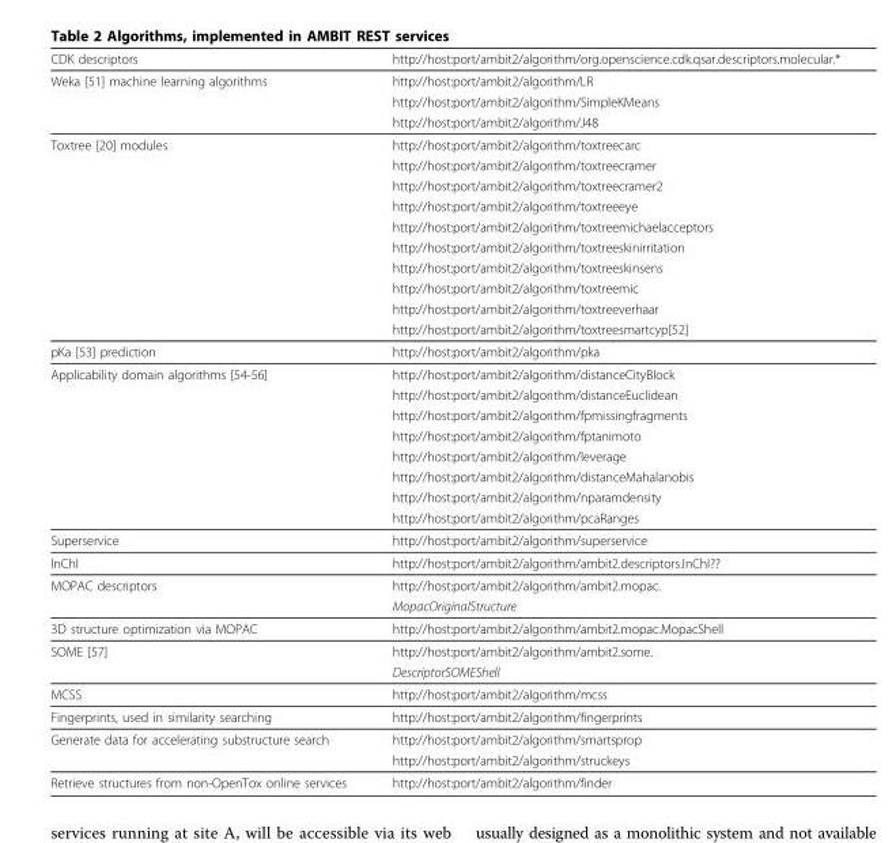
<table><thead><tr><td>CDK descriptors</td><td>http://host:port/ambit2/algorithm/org.openscience.cdk.qsar.descriptors.molecular.*</td></tr></thead><tbody><tr><td rowspan="3">Weka [51] machine learning algorithms</td><td>http://host:port/ambit2/algorithm/LR</td></tr><tr><td>http://host:port/ambit2/algorithm/SimpleKMeans</td></tr><tr><td>http://host:port/ambit2/algorithm/J48</td></tr><tr><td rowspan="10">Toxtree [20] modules</td><td>http://host:port/ambit2/algorithm/toxtreecarc</td></tr><tr><td>http://host:port/ambit2/algorithm/toxtreecramer</td></tr><tr><td>http://host:port/ambit2/algorithm/toxtreecramer2</td></tr><tr><td>http://host:port/ambit2/algorithm/toxtreeeye</td></tr><tr><td>http://host:port/ambit2/algorithm/toxtreemichaelacceptors</td></tr><tr><td>http://host:port/ambit2/algorithm/toxtreeskinirritation</td></tr><tr><td>http://host:port/ambit2/algorithm/toxtreeskinsens</td></tr><tr><td>http://host:port/ambit2/algorithm/toxtreemic</td></tr><tr><td>http://host:port/ambit2/algorithm/toxtreeverhaar</td></tr><tr><td>http://host:port/ambit2/algorithm/toxtreesmartcyp[52]</td></tr><tr><td>pKa [53] prediction</td><td>http://host:port/ambit2/algorithm/pka</td></tr><tr><td rowspan="8">Applicability domain algorithms [54-56]</td><td>http://host:port/ambit2/algorithm/distanceCityBlock</td></tr><tr><td>http://host:port/ambit2/algorithm/distanceEuclidean</td></tr><tr><td>http://host:port/ambit2/algorithm/fpmissingfragments</td></tr><tr><td>http://host:port/ambit2/algorithm/fptanimoto</td></tr><tr><td>http://host:port/ambit2/algorithm/leverage</td></tr><tr><td>http://host:port/ambit2/algorithm/distanceMahalanobis</td></tr><tr><td>http://host:port/ambit2/algorithm/nparamdensity</td></tr><tr><td>http://host:port/ambit2/algorithm/pcaRanges</td></tr><tr><td>Superservice</td><td>http://host:port/ambit2/algorithm/superservice</td></tr><tr><td>InChI</td><td>http://host:port/ambit2/algorithm/ambit2.descriptors.InChI??</td></tr><tr><td rowspan="2">MOPAC descriptors</td><td>http://host:port/ambit2/algorithm/ambit2.mopac.</td></tr><tr><td>MopacOriginalStructure</td></tr><tr><td>3D structure optimization via MOPAC</td><td>http://host:port/ambit2/algorithm/ambit2.mopac.MopacShell</td></tr><tr><td rowspan="2">SOME [57]</td><td>http://host:port/ambit2/algorithm/ambit2.some.</td></tr><tr><td>DescriptorSOMEShell</td></tr><tr><td>MCSS</td><td>http://host:port/ambit2/algorithm/mcss</td></tr><tr><td>Fingerprints, used in similarity searching</td><td>http://host:port/ambit2/algorithm/fingerprints</td></tr><tr><td rowspan="2">Generate data for accelerating substructure search</td><td>http://host:port/ambit2/algorithm/smartsprop</td></tr><tr><td>http://host:port/ambit2/algorithm/struckeys</td></tr><tr><td>Retrieve structures from non-OpenTox online services</td><td>http://host:port/ambit2/algorithm/finder</td></tr></tbody></table>